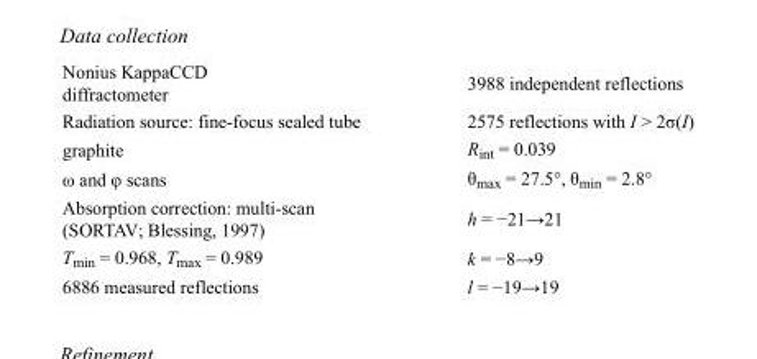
<table><tbody><tr><td>Nonius KappaCCD diffractometer</td><td>3988 independent reflections</td></tr><tr><td>Radiation source: fine-focus sealed tube</td><td>2575 reflections with I &gt; 2σ(I)</td></tr><tr><td>graphite</td><td>R<sub>int</sub> = 0.039</td></tr><tr><td>ω and φ scans</td><td>θ<sub>max</sub> = 27.5°, θ<sub>min</sub> = 2.8°</td></tr><tr><td>Absorption correction: multi-scan (SORTAV; Blessing, 1997)</td><td>h = −21→21</td></tr><tr><td>T<sub>min</sub> = 0.968, T<sub>max</sub> = 0.989</td><td>k = −8→9</td></tr><tr><td>6886 measured reflections</td><td>l = −19→19</td></tr></tbody></table>